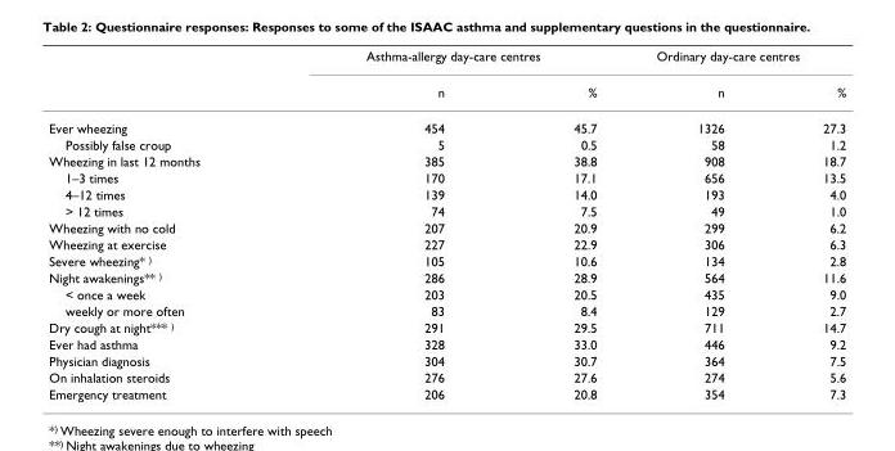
<table><thead><tr><td rowspan="2"></td><td colspan="2">Asthma-allergy day-care centres</td><td colspan="2">Ordinary day-care centres</td></tr><tr><td>n</td><td>%</td><td>n</td><td>%</td></tr></thead><tbody><tr><td>Ever wheezing</td><td>454</td><td>45.7</td><td>1326</td><td>27.3</td></tr><tr><td>Possibly false croup</td><td>5</td><td>0.5</td><td>58</td><td>1.2</td></tr><tr><td>Wheezing in last 12 months</td><td>385</td><td>38.8</td><td>908</td><td>18.7</td></tr><tr><td>1–3 times</td><td>170</td><td>17.1</td><td>656</td><td>13.5</td></tr><tr><td>4–12 times</td><td>139</td><td>14.0</td><td>193</td><td>4.0</td></tr><tr><td>&gt; 12 times</td><td>74</td><td>7.5</td><td>49</td><td>1.0</td></tr><tr><td>Wheezing with no cold</td><td>207</td><td>20.9</td><td>299</td><td>6.2</td></tr><tr><td>Wheezing at exercise</td><td>227</td><td>22.9</td><td>306</td><td>6.3</td></tr><tr><td>Severe wheezing* <sup>)</sup></td><td>105</td><td>10.6</td><td>134</td><td>2.8</td></tr><tr><td>Night awakenings** <sup>)</sup></td><td>286</td><td>28.9</td><td>564</td><td>11.6</td></tr><tr><td>&lt; once a week</td><td>203</td><td>20.5</td><td>435</td><td>9.0</td></tr><tr><td>weekly or more often</td><td>83</td><td>8.4</td><td>129</td><td>2.7</td></tr><tr><td>Dry cough at night*** <sup>)</sup></td><td>291</td><td>29.5</td><td>711</td><td>14.7</td></tr><tr><td>Ever had asthma</td><td>328</td><td>33.0</td><td>446</td><td>9.2</td></tr><tr><td>Physician diagnosis</td><td>304</td><td>30.7</td><td>364</td><td>7.5</td></tr><tr><td>On inhalation steroids</td><td>276</td><td>27.6</td><td>274</td><td>5.6</td></tr><tr><td>Emergency treatment</td><td>206</td><td>20.8</td><td>354</td><td>7.3</td></tr></tbody></table>